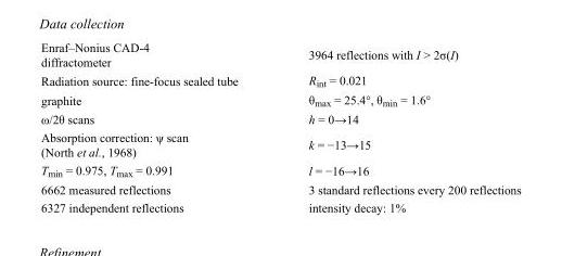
<table><tbody><tr><td>Enraf–Nonius CAD-4 diffractometer</td><td>3964 reflections with I &gt; 2σ(I)</td></tr><tr><td>Radiation source: fine-focus sealed tube</td><td>R<sub>int</sub> = 0.021</td></tr><tr><td>graphite</td><td>θ<sub>max</sub> = 25.4°, θ<sub>min</sub> = 1.6°</td></tr><tr><td>ω/2θ scans</td><td>h = 0→14</td></tr><tr><td>Absorption correction: ψ scan (North et al., 1968)</td><td>k = −13→15</td></tr><tr><td>T<sub>min</sub> = 0.975, T<sub>max</sub> = 0.991</td><td>l = −16→16</td></tr><tr><td>6662 measured reflections</td><td>3 standard reflections every 200 reflections</td></tr><tr><td>6327 independent reflections</td><td>intensity decay: 1%</td></tr></tbody></table>